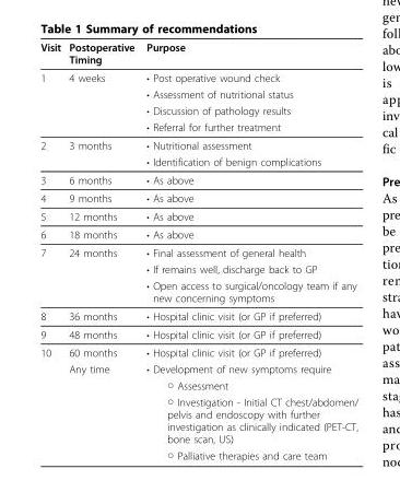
<table><thead><tr><td>Visit</td><td>Postoperative Timing</td><td>Purpose</td></tr></thead><tbody><tr><td rowspan="4">1</td><td>4 weeks</td><td>• Post operative wound check</td></tr><tr><td></td><td>• Assessment of nutritional status</td></tr><tr><td></td><td>• Discussion of pathology results</td></tr><tr><td></td><td>• Referral for further treatment</td></tr><tr><td rowspan="2">2</td><td>3 months</td><td>• Nutritional assessment</td></tr><tr><td></td><td>• Identification of benign complications</td></tr><tr><td>3</td><td>6 months</td><td>• As above</td></tr><tr><td>4</td><td>9 months</td><td>• As above</td></tr><tr><td>5</td><td>12 months</td><td>• As above</td></tr><tr><td>6</td><td>18 months</td><td>• As above</td></tr><tr><td rowspan="3">7</td><td>24 months</td><td>• Final assessment of general health</td></tr><tr><td></td><td>• If remains well, discharge back to GP</td></tr><tr><td></td><td>• Open access to surgical/oncology team if any new concerning symptoms</td></tr><tr><td>8</td><td>36 months</td><td>• Hospital clinic visit (or GP if preferred)</td></tr><tr><td>9</td><td>48 months</td><td>• Hospital clinic visit (or GP if preferred)</td></tr><tr><td rowspan="5">10</td><td>60 months</td><td>• Hospital clinic visit (or GP if preferred)</td></tr><tr><td>Any time</td><td>• Development of new symptoms require</td></tr><tr><td></td><td>○ Assessment</td></tr><tr><td></td><td>○ Investigation - Initial CT chest/abdomen/ pelvis and endoscopy with further investigation as clinically indicated (PET-CT, bone scan, US)</td></tr><tr><td></td><td>○ Palliative therapies and care team</td></tr></tbody></table>